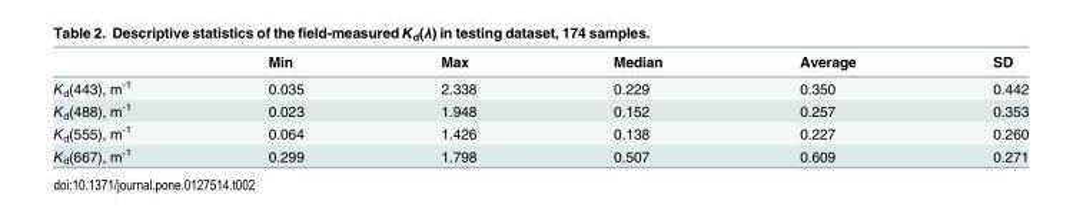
<table><thead><tr><td></td><td>Min</td><td>Max</td><td>Median</td><td>Average</td><td>SD</td></tr></thead><tbody><tr><td>K<sub>d</sub>(443), m<sup>-1</sup></td><td>0.035</td><td>2.338</td><td>0.229</td><td>0.350</td><td>0.442</td></tr><tr><td>K<sub>d</sub>(488), m<sup>-1</sup></td><td>0.023</td><td>1.948</td><td>0.152</td><td>0.257</td><td>0.353</td></tr><tr><td>K<sub>d</sub>(555), m<sup>-1</sup></td><td>0.064</td><td>1.426</td><td>0.138</td><td>0.227</td><td>0.260</td></tr><tr><td>K<sub>d</sub>(667), m<sup>-1</sup></td><td>0.299</td><td>1.798</td><td>0.507</td><td>0.609</td><td>0.271</td></tr></tbody></table>